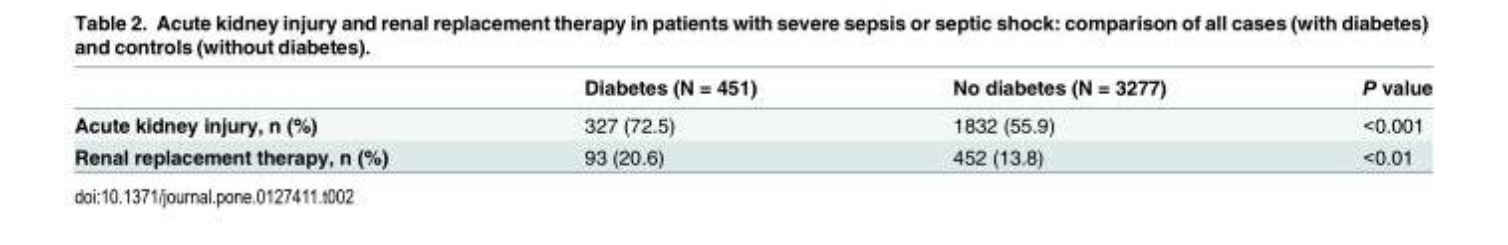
<table><thead><tr><td></td><td>Diabetes (N = 451)</td><td>No diabetes (N = 3277)</td><td>P value</td></tr></thead><tbody><tr><td>Acute kidney injury, n (%)</td><td>327 (72.5)</td><td>1832 (55.9)</td><td>&lt;0.001</td></tr><tr><td>Renal replacement therapy, n (%)</td><td>93 (20.6)</td><td>452 (13.8)</td><td>&lt;0.01</td></tr></tbody></table>